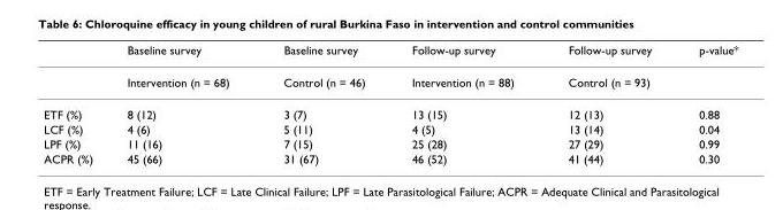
<table><thead><tr><td></td><td>Baseline survey</td><td>Baseline survey</td><td>Follow-up survey</td><td>Follow-up survey</td><td>p-value*</td></tr></thead><tbody><tr><td></td><td>Intervention (n = 68)</td><td>Control (n = 46)</td><td>Intervention (n = 88)</td><td>Control (n = 93)</td><td></td></tr><tr><td>ETF (%)</td><td>8 (12)</td><td>3 (7)</td><td>13 (15)</td><td>12 (13)</td><td>0.88</td></tr><tr><td>LCF (%)</td><td>4 (6)</td><td>5 (11)</td><td>4 (5)</td><td>13 (14)</td><td>0.04</td></tr><tr><td>LPF (%)</td><td>11 (16)</td><td>7 (15)</td><td>25 (28)</td><td>27 (29)</td><td>0.99</td></tr><tr><td>ACPR (%)</td><td>45 (66)</td><td>31 (67)</td><td>46 (52)</td><td>41 (44)</td><td>0.30</td></tr></tbody></table>